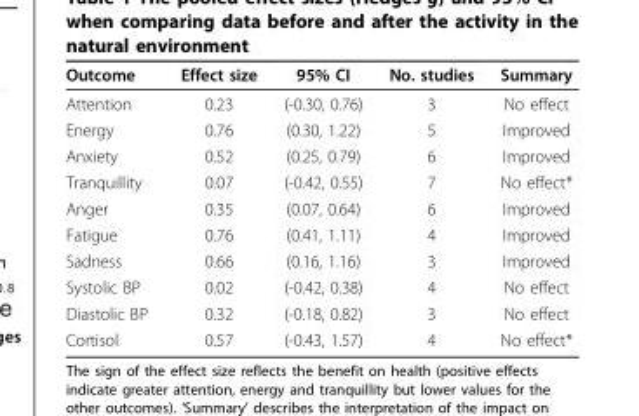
<table><thead><tr><td>Outcome</td><td>Effect size</td><td>95% CI</td><td>No. studies</td><td>Summary</td></tr></thead><tbody><tr><td>Attention</td><td>0.23</td><td>(-0.30, 0.76)</td><td>3</td><td>No effect</td></tr><tr><td>Energy</td><td>0.76</td><td>(0.30, 1.22)</td><td>5</td><td>Improved</td></tr><tr><td>Anxiety</td><td>0.52</td><td>(0.25, 0.79)</td><td>6</td><td>Improved</td></tr><tr><td>Tranquillity</td><td>0.07</td><td>(-0.42, 0.55)</td><td>7</td><td>No effect*</td></tr><tr><td>Anger</td><td>0.35</td><td>(0.07, 0.64)</td><td>6</td><td>Improved</td></tr><tr><td>Fatigue</td><td>0.76</td><td>(0.41, 1.11)</td><td>4</td><td>Improved</td></tr><tr><td>Sadness</td><td>0.66</td><td>(0.16, 1.16)</td><td>3</td><td>Improved</td></tr><tr><td>Systolic BP</td><td>0.02</td><td>(-0.42, 0.38)</td><td>4</td><td>No effect</td></tr><tr><td>Diastolic BP</td><td>0.32</td><td>(-0.18, 0.82)</td><td>3</td><td>No effect</td></tr><tr><td>Cortisol</td><td>0.57</td><td>(-0.43, 1.57)</td><td>4</td><td>No effect*</td></tr></tbody></table>